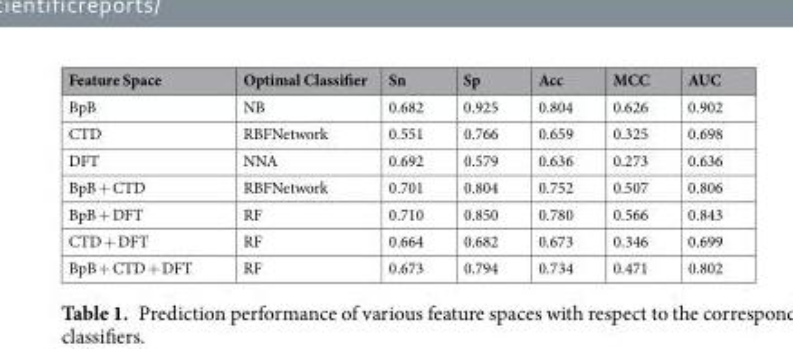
<table><thead><tr><td>Feature Space</td><td>Optimal Classifier</td><td>Sn</td><td>Sp</td><td>Acc</td><td>MCC</td><td>AUC</td></tr></thead><tbody><tr><td>BpB</td><td>NB</td><td>0.682</td><td>0.925</td><td>0.804</td><td>0.626</td><td>0.902</td></tr><tr><td>CTD</td><td>RBFNetwork</td><td>0.551</td><td>0.766</td><td>0.659</td><td>0.325</td><td>0.698</td></tr><tr><td>DFT</td><td>NNA</td><td>0.692</td><td>0.579</td><td>0.636</td><td>0.273</td><td>0.636</td></tr><tr><td>BpB + CTD</td><td>RBFNetwork</td><td>0.701</td><td>0.804</td><td>0.752</td><td>0.507</td><td>0.806</td></tr><tr><td>BpB + DFT</td><td>RF</td><td>0.710</td><td>0.850</td><td>0.780</td><td>0.566</td><td>0.843</td></tr><tr><td>CTD + DFT</td><td>RF</td><td>0.664</td><td>0.682</td><td>0.673</td><td>0.346</td><td>0.699</td></tr><tr><td>BpB + CTD + DFT</td><td>RF</td><td>0.673</td><td>0.794</td><td>0.734</td><td>0.471</td><td>0.802</td></tr></tbody></table>